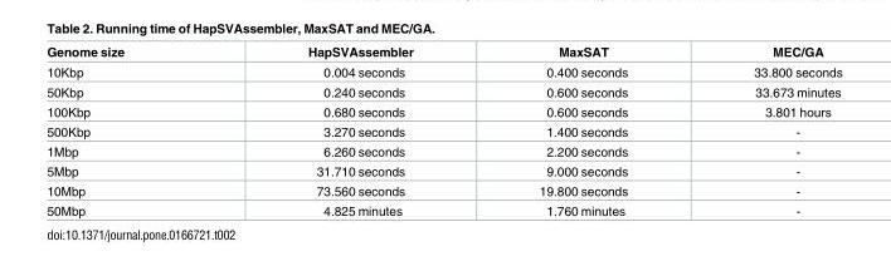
<table><thead><tr><td>Genome size</td><td>HapSVAssembler</td><td>MaxSAT</td><td>MEC/GA</td></tr></thead><tbody><tr><td>10Kbp</td><td>0.004 seconds</td><td>0.400 seconds</td><td>33.800 seconds</td></tr><tr><td>50Kbp</td><td>0.240 seconds</td><td>0.600 seconds</td><td>33.673 minutes</td></tr><tr><td>100Kbp</td><td>0.680 seconds</td><td>0.600 seconds</td><td>3.801 hours</td></tr><tr><td>500Kbp</td><td>3.270 seconds</td><td>1.400 seconds</td><td>-</td></tr><tr><td>1Mbp</td><td>6.260 seconds</td><td>2.200 seconds</td><td>-</td></tr><tr><td>5Mbp</td><td>31.710 seconds</td><td>9.000 seconds</td><td>-</td></tr><tr><td>10Mbp</td><td>73.560 seconds</td><td>19.800 seconds</td><td>-</td></tr><tr><td>50Mbp</td><td>4.825 minutes</td><td>1.760 minutes</td><td>-</td></tr></tbody></table>